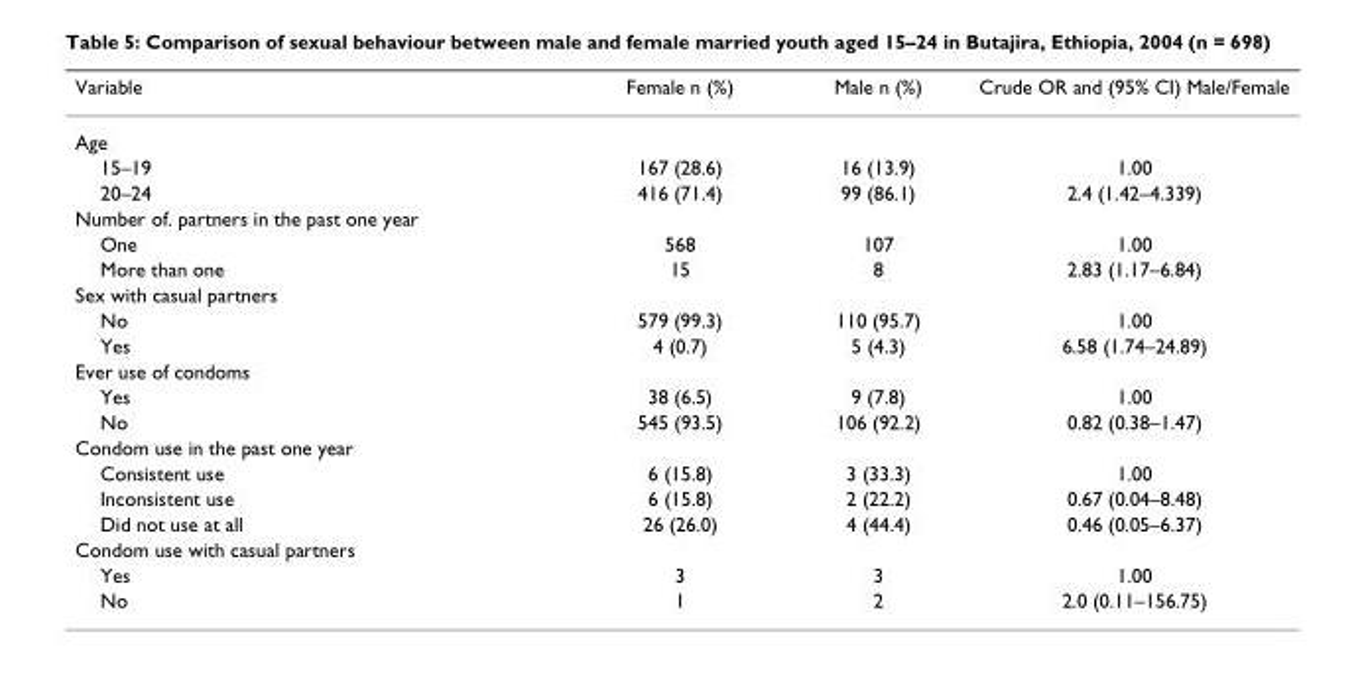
<table><thead><tr><td>Variable</td><td>Female n (%)</td><td>Male n (%)</td><td>Crude OR and (95% CI) Male/Female</td></tr></thead><tbody><tr><td colspan="4">Age</td></tr><tr><td>15–19</td><td>167 (28.6)</td><td>16 (13.9)</td><td>1.00</td></tr><tr><td>20–24</td><td>416 (71.4)</td><td>99 (86.1)</td><td>2.4 (1.42–4.339)</td></tr><tr><td colspan="4">Number of. partners in the past one year</td></tr><tr><td>One</td><td>568</td><td>107</td><td>1.00</td></tr><tr><td>More than one</td><td>15</td><td>8</td><td>2.83 (1.17–6.84)</td></tr><tr><td colspan="4">Sex with casual partners</td></tr><tr><td>No</td><td>579 (99.3)</td><td>110 (95.7)</td><td>1.00</td></tr><tr><td>Yes</td><td>4 (0.7)</td><td>5 (4.3)</td><td>6.58 (1.74–24.89)</td></tr><tr><td colspan="4">Ever use of condoms</td></tr><tr><td>Yes</td><td>38 (6.5)</td><td>9 (7.8)</td><td>1.00</td></tr><tr><td>No</td><td>545 (93.5)</td><td>106 (92.2)</td><td>0.82 (0.38–1.47)</td></tr><tr><td colspan="4">Condom use in the past one year</td></tr><tr><td>Consistent use</td><td>6 (15.8)</td><td>3 (33.3)</td><td>1.00</td></tr><tr><td>Inconsistent use</td><td>6 (15.8)</td><td>2 (22.2)</td><td>0.67 (0.04–8.48)</td></tr><tr><td>Did not use at all</td><td>26 (26.0)</td><td>4 (44.4)</td><td>0.46 (0.05–6.37)</td></tr><tr><td colspan="4">Condom use with casual partners</td></tr><tr><td>Yes</td><td>3</td><td>3</td><td>1.00</td></tr><tr><td>No</td><td>1</td><td>2</td><td>2.0 (0.11–156.75)</td></tr></tbody></table>